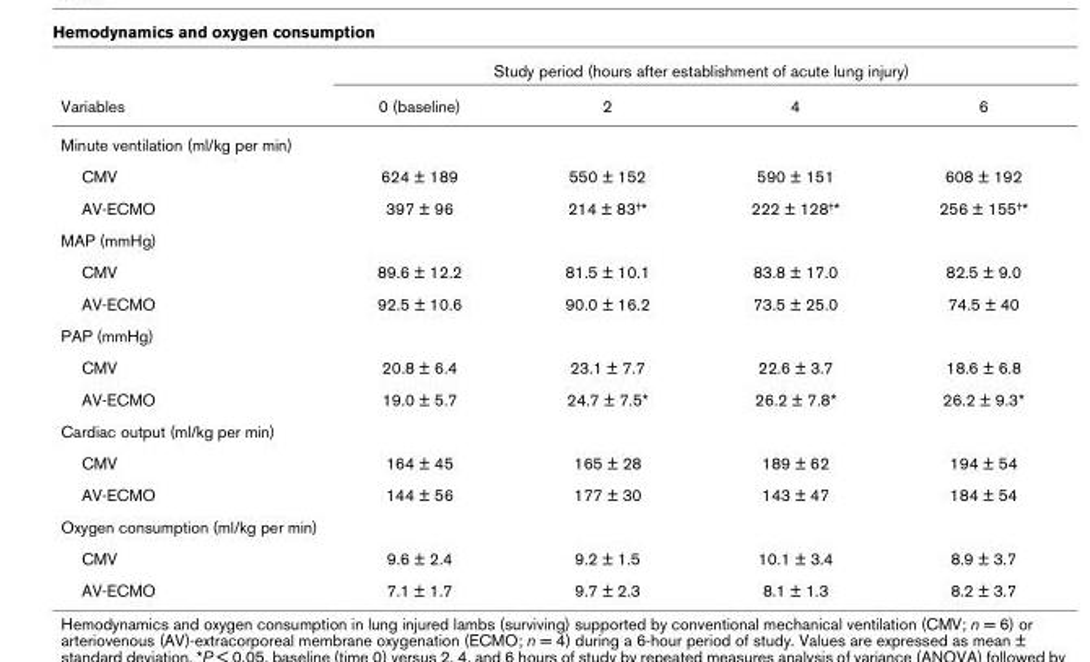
<table><thead><tr><td rowspan="2">Variables</td><td colspan="4">Study period (hours after establishment of acute lung injury)</td></tr><tr><td>0 (baseline)</td><td>2</td><td>4</td><td>6</td></tr></thead><tbody><tr><td colspan="5">Minute ventilation (ml/kg per min)</td></tr><tr><td>CMV</td><td>624 ± 189</td><td>550 ± 152</td><td>590 ± 151</td><td>608 ± 192</td></tr><tr><td>AV-ECMO</td><td>397 ± 96</td><td>214 ± 83†*</td><td>222 ± 128†*</td><td>256 ± 155†*</td></tr><tr><td colspan="5">MAP (mmHg)</td></tr><tr><td>CMV</td><td>89.6 ± 12.2</td><td>81.5 ± 10.1</td><td>83.8 ± 17.0</td><td>82.5 ± 9.0</td></tr><tr><td>AV-ECMO</td><td>92.5 ± 10.6</td><td>90.0 ± 16.2</td><td>73.5 ± 25.0</td><td>74.5 ± 40</td></tr><tr><td colspan="5">PAP (mmHg)</td></tr><tr><td>CMV</td><td>20.8 ± 6.4</td><td>23.1 ± 7.7</td><td>22.6 ± 3.7</td><td>18.6 ± 6.8</td></tr><tr><td>AV-ECMO</td><td>19.0 ± 5.7</td><td>24.7 ± 7.5*</td><td>26.2 ± 7.8*</td><td>26.2 ± 9.3*</td></tr><tr><td colspan="5">Cardiac output (ml/kg per min)</td></tr><tr><td>CMV</td><td>164 ± 45</td><td>165 ± 28</td><td>189 ± 62</td><td>194 ± 54</td></tr><tr><td>AV-ECMO</td><td>144 ± 56</td><td>177 ± 30</td><td>143 ± 47</td><td>184 ± 54</td></tr><tr><td colspan="5">Oxygen consumption (ml/kg per min)</td></tr><tr><td>CMV</td><td>9.6 ± 2.4</td><td>9.2 ± 1.5</td><td>10.1 ± 3.4</td><td>8.9 ± 3.7</td></tr><tr><td>AV-ECMO</td><td>7.1 ± 1.7</td><td>9.7 ± 2.3</td><td>8.1 ± 1.3</td><td>8.2 ± 3.7</td></tr></tbody></table>